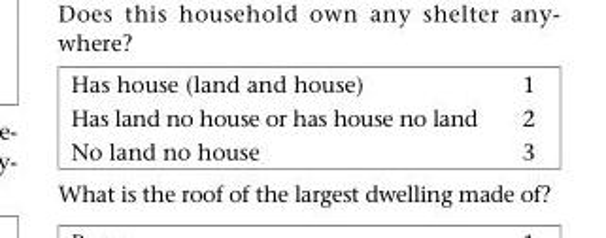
<table><tbody><tr><td>Has house (land and house)</td><td>1</td></tr><tr><td>Has land no house or has house no land</td><td>2</td></tr><tr><td>No land no house</td><td>3</td></tr></tbody></table>